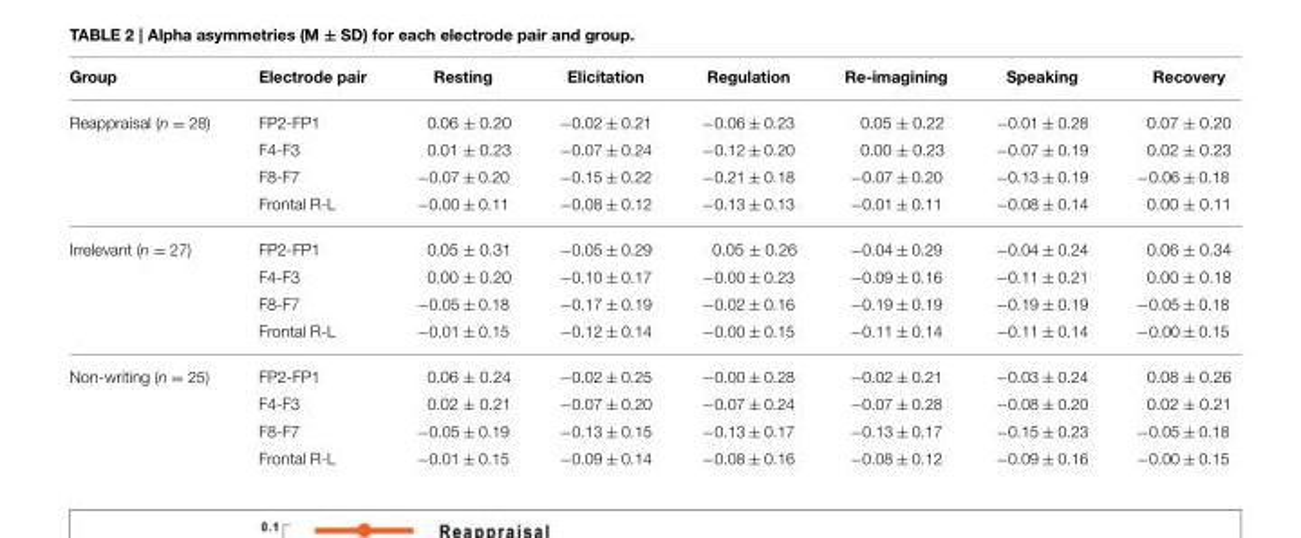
<table><thead><tr><td>Group</td><td>Electrode pair</td><td>Resting</td><td>Elicitation</td><td>Regulation</td><td>Re-imagining</td><td>Speaking</td><td>Recovery</td></tr></thead><tbody><tr><td rowspan="4">Reappraisal (n = 28)</td><td>FP2-FP1</td><td>0.06 ± 0.20</td><td>−0.02 ± 0.21</td><td>−0.06 ± 0.23</td><td>0.05 ± 0.22</td><td>−0.01 ± 0.28</td><td>0.07 ± 0.20</td></tr><tr><td>F4-F3</td><td>0.01 ± 0.23</td><td>−0.07 ± 0.24</td><td>−0.12 ± 0.20</td><td>0.00 ± 0.23</td><td>−0.07 ± 0.19</td><td>0.02 ± 0.23</td></tr><tr><td>F8-F7</td><td>−0.07 ± 0.20</td><td>−0.15 ± 0.22</td><td>−0.21 ± 0.18</td><td>−0.07 ± 0.20</td><td>−0.13 ± 0.19</td><td>−0.06 ± 0.18</td></tr><tr><td>Frontal R-L</td><td>−0.00 ± 0.11</td><td>−0.08 ± 0.12</td><td>−0.13 ± 0.13</td><td>−0.01 ± 0.11</td><td>−0.08 ± 0.14</td><td>0.00 ± 0.11</td></tr><tr><td rowspan="4">Irrelevant (n = 27)</td><td>FP2-FP1</td><td>0.05 ± 0.31</td><td>−0.05 ± 0.29</td><td>0.05 ± 0.26</td><td>−0.04 ± 0.29</td><td>−0.04 ± 0.24</td><td>0.06 ± 0.34</td></tr><tr><td>F4-F3</td><td>0.00 ± 0.20</td><td>−0.10 ± 0.17</td><td>−0.00 ± 0.23</td><td>−0.09 ± 0.16</td><td>−0.11 ± 0.21</td><td>0.00 ± 0.18</td></tr><tr><td>F8-F7</td><td>−0.05 ± 0.18</td><td>−0.17 ± 0.19</td><td>−0.02 ± 0.16</td><td>−0.19 ± 0.19</td><td>−0.19 ± 0.19</td><td>−0.05 ± 0.18</td></tr><tr><td>Frontal R-L</td><td>−0.01 ± 0.15</td><td>−0.12 ± 0.14</td><td>−0.00 ± 0.15</td><td>−0.11 ± 0.14</td><td>−0.11 ± 0.14</td><td>−0.00 ± 0.15</td></tr><tr><td rowspan="4">Non-writing (n = 25)</td><td>FP2-FP1</td><td>0.06 ± 0.24</td><td>−0.02 ± 0.25</td><td>−0.00 ± 0.28</td><td>−0.02 ± 0.21</td><td>−0.03 ± 0.24</td><td>0.08 ± 0.26</td></tr><tr><td>F4-F3</td><td>0.02 ± 0.21</td><td>−0.07 ± 0.20</td><td>−0.07 ± 0.24</td><td>−0.07 ± 0.28</td><td>−0.08 ± 0.20</td><td>0.02 ± 0.21</td></tr><tr><td>F8-F7</td><td>−0.05 ± 0.19</td><td>−0.13 ± 0.15</td><td>−0.13 ± 0.17</td><td>−0.13 ± 0.17</td><td>−0.15 ± 0.23</td><td>−0.05 ± 0.18</td></tr><tr><td>Frontal R-L</td><td>−0.01 ± 0.15</td><td>−0.09 ± 0.14</td><td>−0.08 ± 0.16</td><td>−0.08 ± 0.12</td><td>−0.09 ± 0.16</td><td>−0.00 ± 0.15</td></tr></tbody></table>